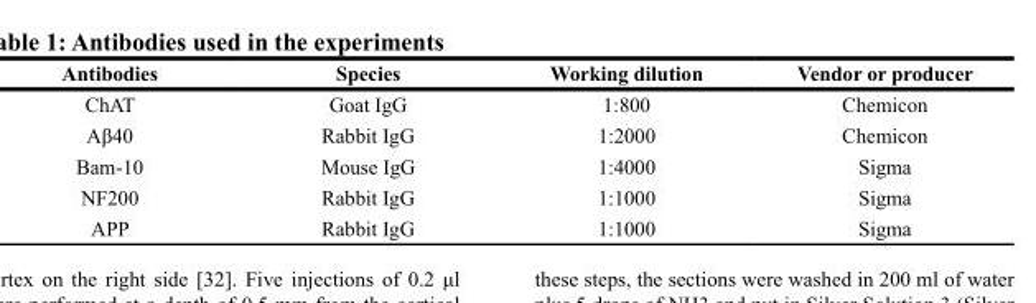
<table><thead><tr><td>Antibodies</td><td>Species</td><td>Working dilution</td><td>Vendor or producer</td></tr></thead><tbody><tr><td>ChAT</td><td>Goat IgG</td><td>1:800</td><td>Chemicon</td></tr><tr><td>Aβ40</td><td>Rabbit IgG</td><td>1:2000</td><td>Chemicon</td></tr><tr><td>Bam-10</td><td>Mouse IgG</td><td>1:4000</td><td>Sigma</td></tr><tr><td>NF200</td><td>Rabbit IgG</td><td>1:1000</td><td>Sigma</td></tr><tr><td>APP</td><td>Rabbit IgG</td><td>1:1000</td><td>Sigma</td></tr></tbody></table>